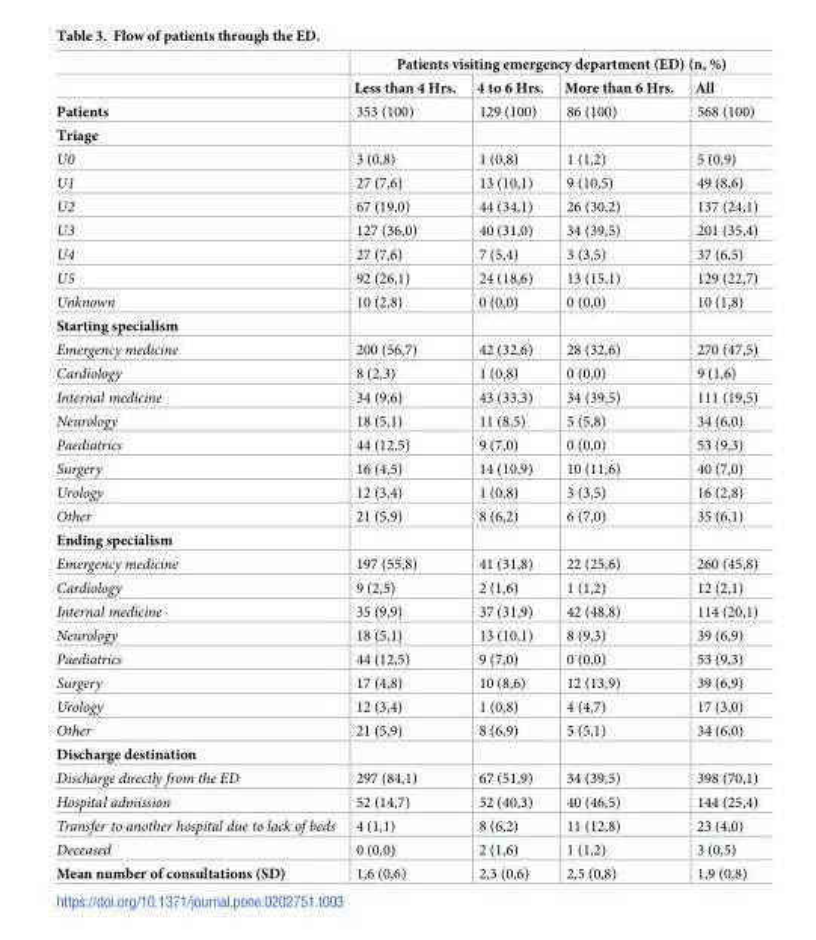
<table><thead><tr><td rowspan="2"></td><td colspan="4">Patients visiting emergency department (ED) (n, %)</td></tr><tr><td>Less than 4 Hrs.</td><td>4 to 6 Hrs.</td><td>More than 6 Hrs.</td><td>All</td></tr></thead><tbody><tr><td>Patients</td><td>353 (100)</td><td>129 (100)</td><td>86 (100)</td><td>568 (100)</td></tr><tr><td colspan="5">Triage</td></tr><tr><td>U0</td><td>3 (0,8)</td><td>1 (0,8)</td><td>1 (1,2)</td><td>5 (0,9)</td></tr><tr><td>U1</td><td>27 (7,6)</td><td>13 (10,1)</td><td>9 (10,5)</td><td>49 (8,6)</td></tr><tr><td>U2</td><td>67 (19,0)</td><td>44 (34,1)</td><td>26 (30,2)</td><td>137 (24,1)</td></tr><tr><td>U3</td><td>127 (36,0)</td><td>40 (31,0)</td><td>34 (39,5)</td><td>201 (35,4)</td></tr><tr><td>U4</td><td>27 (7,6)</td><td>7 (5,4)</td><td>3 (3,5)</td><td>37 (6,5)</td></tr><tr><td>U5</td><td>92 (26,1)</td><td>24 (18,6)</td><td>13 (15,1)</td><td>129 (22,7)</td></tr><tr><td>Unknown</td><td>10 (2,8)</td><td>0 (0,0)</td><td>0 (0,0)</td><td>10 (1,8)</td></tr><tr><td colspan="5">Starting specialism</td></tr><tr><td>Emergency medicine</td><td>200 (56,7)</td><td>42 (32,6)</td><td>28 (32,6)</td><td>270 (47,5)</td></tr><tr><td>Cardiology</td><td>8 (2,3)</td><td>1 (0,8)</td><td>0 (0,0)</td><td>9 (1,6)</td></tr><tr><td>Internal medicine</td><td>34 (9,6)</td><td>43 (33,3)</td><td>34 (39,5)</td><td>111 (19,5)</td></tr><tr><td>Neurology</td><td>18 (5,1)</td><td>11 (8,5)</td><td>5 (5,8)</td><td>34 (6,0)</td></tr><tr><td>Paediatrics</td><td>44 (12,5)</td><td>9 (7,0)</td><td>0 (0,0)</td><td>53 (9,3)</td></tr><tr><td>Surgery</td><td>16 (4,5)</td><td>14 (10,9)</td><td>10 (11,6)</td><td>40 (7,0)</td></tr><tr><td>Urology</td><td>12 (3,4)</td><td>1 (0,8)</td><td>3 (3,5)</td><td>16 (2,8)</td></tr><tr><td>Other</td><td>21 (5,9)</td><td>8 (6,2)</td><td>6 (7,0)</td><td>35 (6,1)</td></tr><tr><td colspan="5">Ending specialism</td></tr><tr><td>Emergency medicine</td><td>197 (55,8)</td><td>41 (31,8)</td><td>22 (25,6)</td><td>260 (45,8)</td></tr><tr><td>Cardiology</td><td>9 (2,5)</td><td>2 (1,6)</td><td>1 (1,2)</td><td>12 (2,1)</td></tr><tr><td>Internal medicine</td><td>35 (9,9)</td><td>37 (31,9)</td><td>42 (48,8)</td><td>114 (20,1)</td></tr><tr><td>Neurology</td><td>18 (5,1)</td><td>13 (10,1)</td><td>8 (9,3)</td><td>39 (6,9)</td></tr><tr><td>Paediatrics</td><td>44 (12,5)</td><td>9 (7,0)</td><td>0 (0,0)</td><td>53 (9,3)</td></tr><tr><td>Surgery</td><td>17 (4,8)</td><td>10 (8,6)</td><td>12 (13,9)</td><td>39 (6,9)</td></tr><tr><td>Urology</td><td>12 (3,4)</td><td>1 (0,8)</td><td>4 (4,7)</td><td>17 (3,0)</td></tr><tr><td>Other</td><td>21 (5,9)</td><td>8 (6,9)</td><td>5 (5,1)</td><td>34 (6,0)</td></tr><tr><td colspan="5">Discharge destination</td></tr><tr><td>Discharge directly from the ED</td><td>297 (84,1)</td><td>67 (51,9)</td><td>34 (39,5)</td><td>398 (70,1)</td></tr><tr><td>Hospital admission</td><td>52 (14,7)</td><td>52 (40,3)</td><td>40 (46,5)</td><td>144 (25,4)</td></tr><tr><td>Transfer to another hospital due to lack of beds</td><td>4 (1,1)</td><td>8 (6,2)</td><td>11 (12,8)</td><td>23 (4,0)</td></tr><tr><td>Deceased</td><td>0 (0,0)</td><td>2 (1,6)</td><td>1 (1,2)</td><td>3 (0,5)</td></tr><tr><td>Mean number of consultations (SD)</td><td>1,6 (0,6)</td><td>2,3 (0,6)</td><td>2,5 (0,8)</td><td>1,9 (0,8)</td></tr></tbody></table>